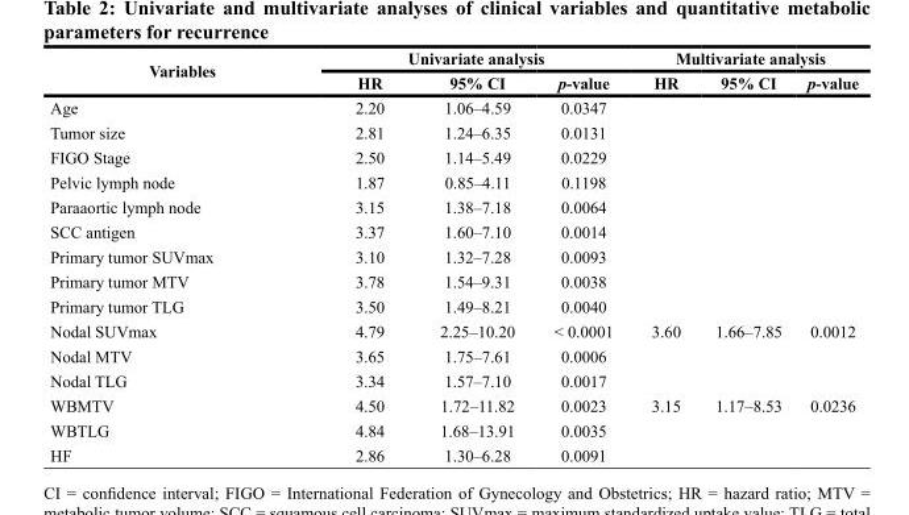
<table><thead><tr><td rowspan="2">Variables</td><td colspan="3">Univariate analysis</td><td colspan="3">Multivariate analysis</td></tr><tr><td>HR</td><td>95% CI</td><td>p-value</td><td>HR</td><td>95% CI</td><td>p-value</td></tr></thead><tbody><tr><td>Age</td><td>2.20</td><td>1.06–4.59</td><td>0.0347</td><td></td><td></td><td></td></tr><tr><td>Tumor size</td><td>2.81</td><td>1.24–6.35</td><td>0.0131</td><td></td><td></td><td></td></tr><tr><td>FIGO Stage</td><td>2.50</td><td>1.14–5.49</td><td>0.0229</td><td></td><td></td><td></td></tr><tr><td>Pelvic lymph node</td><td>1.87</td><td>0.85–4.11</td><td>0.1198</td><td></td><td></td><td></td></tr><tr><td>Paraaortic lymph node</td><td>3.15</td><td>1.38–7.18</td><td>0.0064</td><td></td><td></td><td></td></tr><tr><td>SCC antigen</td><td>3.37</td><td>1.60–7.10</td><td>0.0014</td><td></td><td></td><td></td></tr><tr><td>Primary tumor SUVmax</td><td>3.10</td><td>1.32–7.28</td><td>0.0093</td><td></td><td></td><td></td></tr><tr><td>Primary tumor MTV</td><td>3.78</td><td>1.54–9.31</td><td>0.0038</td><td></td><td></td><td></td></tr><tr><td>Primary tumor TLG</td><td>3.50</td><td>1.49–8.21</td><td>0.0040</td><td></td><td></td><td></td></tr><tr><td>Nodal SUVmax</td><td>4.79</td><td>2.25–10.20</td><td>&lt; 0.0001</td><td>3.60</td><td>1.66–7.85</td><td>0.0012</td></tr><tr><td>Nodal MTV</td><td>3.65</td><td>1.75–7.61</td><td>0.0006</td><td></td><td></td><td></td></tr><tr><td>Nodal TLG</td><td>3.34</td><td>1.57–7.10</td><td>0.0017</td><td></td><td></td><td></td></tr><tr><td>WBMTV</td><td>4.50</td><td>1.72–11.82</td><td>0.0023</td><td>3.15</td><td>1.17–8.53</td><td>0.0236</td></tr><tr><td>WBTLG</td><td>4.84</td><td>1.68–13.91</td><td>0.0035</td><td></td><td></td><td></td></tr><tr><td>HF</td><td>2.86</td><td>1.30–6.28</td><td>0.0091</td><td></td><td></td><td></td></tr></tbody></table>